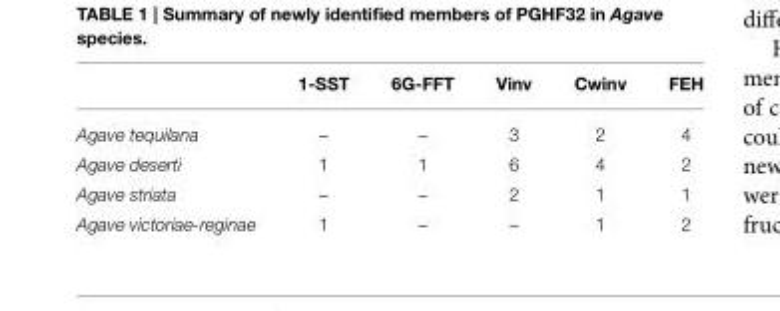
<table><thead><tr><td></td><td>1-SST</td><td>6G-FFT</td><td>Vinv</td><td>Cwinv</td><td>FEH</td></tr></thead><tbody><tr><td>Agave tequilana</td><td>–</td><td>–</td><td>3</td><td>2</td><td>4</td></tr><tr><td>Agave deserti</td><td>1</td><td>1</td><td>6</td><td>4</td><td>2</td></tr><tr><td>Agave striata</td><td>–</td><td>–</td><td>2</td><td>1</td><td>1</td></tr><tr><td>Agave victoriae-reginae</td><td>1</td><td>–</td><td>–</td><td>1</td><td>2</td></tr></tbody></table>